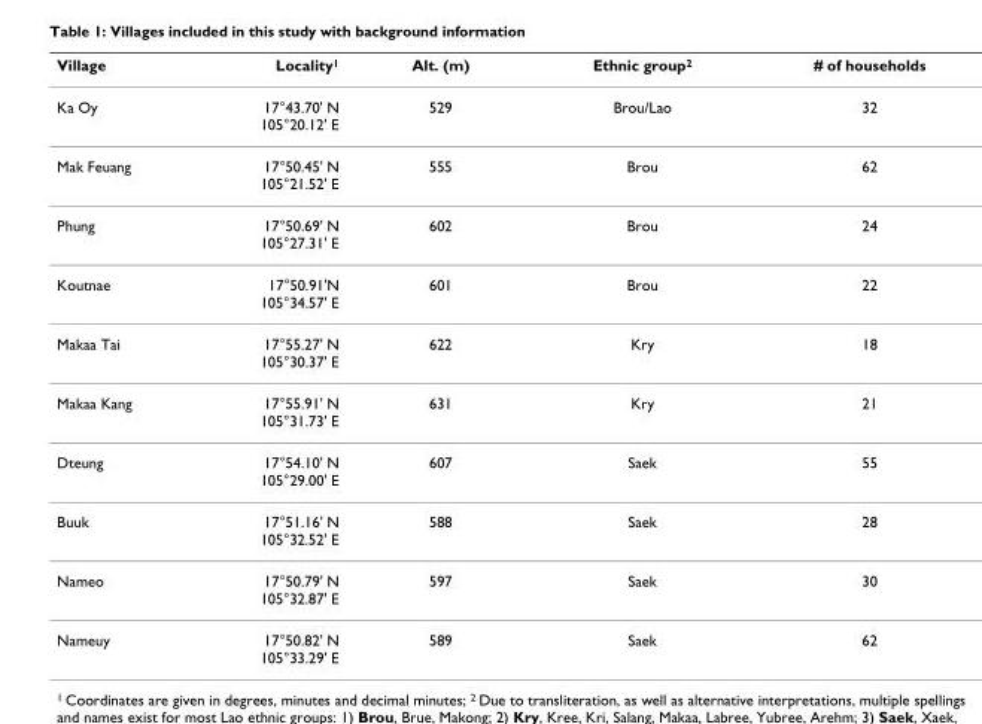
<table><thead><tr><td>Village</td><td>Locality<sup>1</sup></td><td>Alt. (m)</td><td>Ethnic group<sup>2</sup></td><td># of households</td></tr></thead><tbody><tr><td>Ka Oy</td><td>17°43.70&#x27; N 105°20.12&#x27; E</td><td>529</td><td>Brou/Lao</td><td>32</td></tr><tr><td>Mak Feuang</td><td>17°50.45&#x27; N 105°21.52&#x27; E</td><td>555</td><td>Brou</td><td>62</td></tr><tr><td>Phung</td><td>17°50.69&#x27; N 105°27.31&#x27; E</td><td>602</td><td>Brou</td><td>24</td></tr><tr><td>Koutnae</td><td>17°50.91&#x27;N 105°34.57&#x27; E</td><td>601</td><td>Brou</td><td>22</td></tr><tr><td>Makaa Tai</td><td>17°55.27&#x27; N 105°30.37&#x27; E</td><td>622</td><td>Kry</td><td>18</td></tr><tr><td>Makaa Kang</td><td>17°55.91&#x27; N 105°31.73&#x27; E</td><td>631</td><td>Kry</td><td>21</td></tr><tr><td>Dteung</td><td>17°54.10&#x27; N 105°29.00&#x27; E</td><td>607</td><td>Saek</td><td>55</td></tr><tr><td>Buuk</td><td>17°51.16&#x27; N 105°32.52&#x27; E</td><td>588</td><td>Saek</td><td>28</td></tr><tr><td>Nameo</td><td>17°50.79&#x27; N 105°32.87&#x27; E</td><td>597</td><td>Saek</td><td>30</td></tr><tr><td>Nameuy</td><td>17°50.82&#x27; N 105°33.29&#x27; E</td><td>589</td><td>Saek</td><td>62</td></tr></tbody></table>